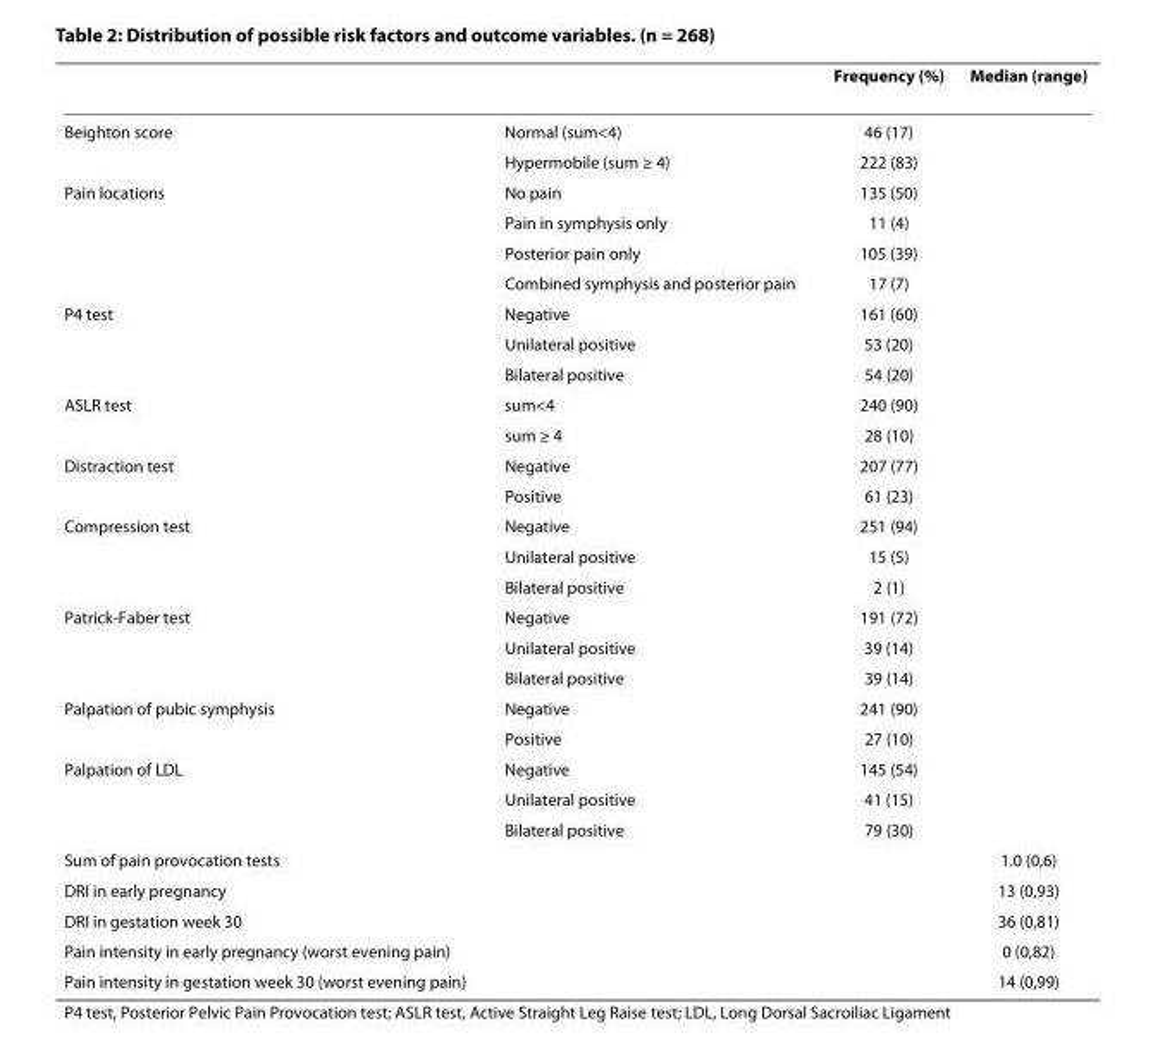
<table><thead><tr><td></td><td></td><td>Frequency (%)</td><td>Median (range)</td></tr></thead><tbody><tr><td rowspan="2">Beighton score</td><td>Normal (sum&lt;4)</td><td>46 (17)</td><td></td></tr><tr><td>Hypermobile (sum ≥ 4)</td><td>222 (83)</td><td></td></tr><tr><td rowspan="4">Pain locations</td><td>No pain</td><td>135 (50)</td><td></td></tr><tr><td>Pain in symphysis only</td><td>11 (4)</td><td></td></tr><tr><td>Posterior pain only</td><td>105 (39)</td><td></td></tr><tr><td>Combined symphysis and posterior pain</td><td>17 (7)</td><td></td></tr><tr><td rowspan="3">P4 test</td><td>Negative</td><td>161 (60)</td><td></td></tr><tr><td>Unilateral positive</td><td>53 (20)</td><td></td></tr><tr><td>Bilateral positive</td><td>54 (20)</td><td></td></tr><tr><td rowspan="2">ASLR test</td><td>sum&lt;4</td><td>240 (90)</td><td></td></tr><tr><td>sum ≥ 4</td><td>28 (10)</td><td></td></tr><tr><td rowspan="2">Distraction test</td><td>Negative</td><td>207 (77)</td><td></td></tr><tr><td>Positive</td><td>61 (23)</td><td></td></tr><tr><td rowspan="3">Compression test</td><td>Negative</td><td>251 (94)</td><td></td></tr><tr><td>Unilateral positive</td><td>15 (5)</td><td></td></tr><tr><td>Bilateral positive</td><td>2 (1)</td><td></td></tr><tr><td rowspan="3">Patrick-Faber test</td><td>Negative</td><td>191 (72)</td><td></td></tr><tr><td>Unilateral positive</td><td>39 (14)</td><td></td></tr><tr><td>Bilateral positive</td><td>39 (14)</td><td></td></tr><tr><td rowspan="2">Palpation of pubic symphysis</td><td>Negative</td><td>241 (90)</td><td></td></tr><tr><td>Positive</td><td>27 (10)</td><td></td></tr><tr><td rowspan="3">Palpation of LDL</td><td>Negative</td><td>145 (54)</td><td></td></tr><tr><td>Unilateral positive</td><td>41 (15)</td><td></td></tr><tr><td>Bilateral positive</td><td>79 (30)</td><td></td></tr><tr><td>Sum of pain provocation tests</td><td></td><td></td><td>1.0 (0,6)</td></tr><tr><td>DRI in early pregnancy</td><td></td><td></td><td>13 (0,93)</td></tr><tr><td>DRI in gestation week 30</td><td></td><td></td><td>36 (0,81)</td></tr><tr><td>Pain intensity in early pregnancy (worst evening pain)</td><td></td><td></td><td>0 (0,82)</td></tr><tr><td>Pain intensity in gestation week 30 (worst evening pain)</td><td></td><td></td><td>14 (0,99)</td></tr></tbody></table>